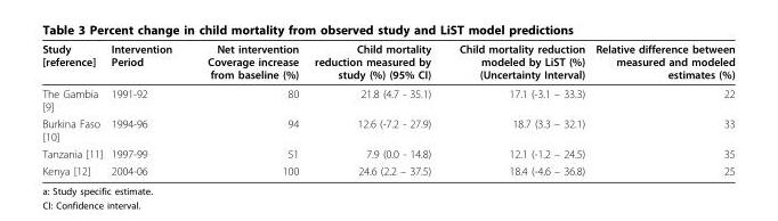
<table><thead><tr><td>Study [reference]</td><td>Intervention Period</td><td>Net intervention Coverage increase from baseline (%)</td><td>Child mortality reduction measured by study (%) (95% CI)</td><td>Child mortality reduction modeled by LiST (%) (Uncertainty Interval)</td><td>Relative difference between measured and modeled estimates (%)</td></tr></thead><tbody><tr><td>The Gambia [9]</td><td>1991-92</td><td>80</td><td>21.8 (4.7 - 35.1)</td><td>17.1 (-3.1 – 33.3)</td><td>22</td></tr><tr><td>Burkina Faso [10]</td><td>1994-96</td><td>94</td><td>12.6 (-7.2 - 27.9)</td><td>18.7 (3.3 – 32.1)</td><td>33</td></tr><tr><td>Tanzania [11]</td><td>1997-99</td><td>51</td><td>7.9 (0.0 - 14.8)</td><td>12.1 (-1.2 – 24.5)</td><td>35</td></tr><tr><td>Kenya [12]</td><td>2004-06</td><td>100</td><td>24.6 (2.2 – 37.5)</td><td>18.4 (-4.6 – 36.8)</td><td>25</td></tr></tbody></table>